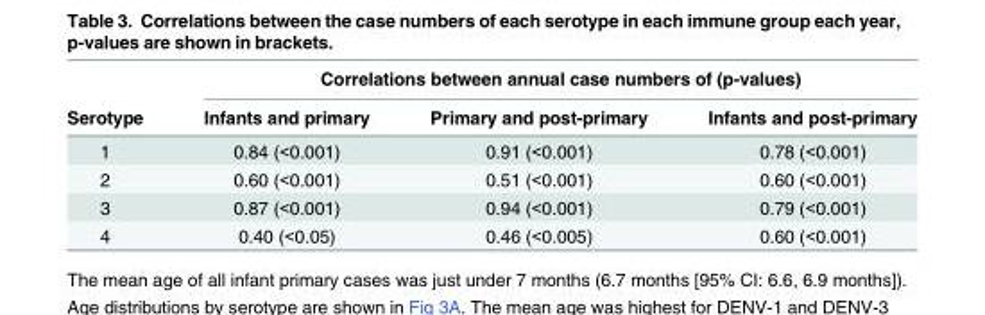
<table><thead><tr><td rowspan="2">Serotype</td><td colspan="3">Correlations between annual case numbers of (p-values)</td></tr><tr><td>Infants and primary</td><td>Primary and post-primary</td><td>Infants and post-primary</td></tr></thead><tbody><tr><td>1</td><td>0.84 (&lt;0.001)</td><td>0.91 (&lt;0.001)</td><td>0.78 (&lt;0.001)</td></tr><tr><td>2</td><td>0.60 (&lt;0.001)</td><td>0.51 (&lt;0.001)</td><td>0.60 (&lt;0.001)</td></tr><tr><td>3</td><td>0.87 (&lt;0.001)</td><td>0.94 (&lt;0.001)</td><td>0.79 (&lt;0.001)</td></tr><tr><td>4</td><td>0.40 (&lt;0.05)</td><td>0.46 (&lt;0.005)</td><td>0.60 (&lt;0.001)</td></tr></tbody></table>